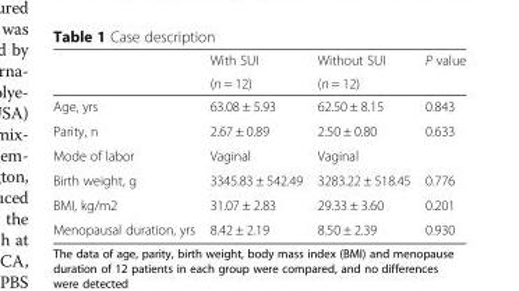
<table><thead><tr><td rowspan="2"></td><td rowspan="2">With SUI (n = 12)</td><td rowspan="2">Without SUI (n = 12)</td><td rowspan="2">P value</td></tr><tr></tr></thead><tbody><tr><td>Age, yrs</td><td>63.08 ± 5.93</td><td>62.50 ± 8.15</td><td>0.843</td></tr><tr><td>Parity, n</td><td>2.67 ± 0.89</td><td>2.50 ± 0.80</td><td>0.633</td></tr><tr><td>Mode of labor</td><td>Vaginal</td><td>Vaginal</td><td></td></tr><tr><td>Birth weight, g</td><td>3345.83 ± 542.49</td><td>3283.22 ± 518.45</td><td>0.776</td></tr><tr><td>BMI, kg/m2</td><td>31.07 ± 2.83</td><td>29.33 ± 3.60</td><td>0.201</td></tr><tr><td>Menopausal duration, yrs</td><td>8.42 ± 2.19</td><td>8.50 ± 2.39</td><td>0.930</td></tr></tbody></table>